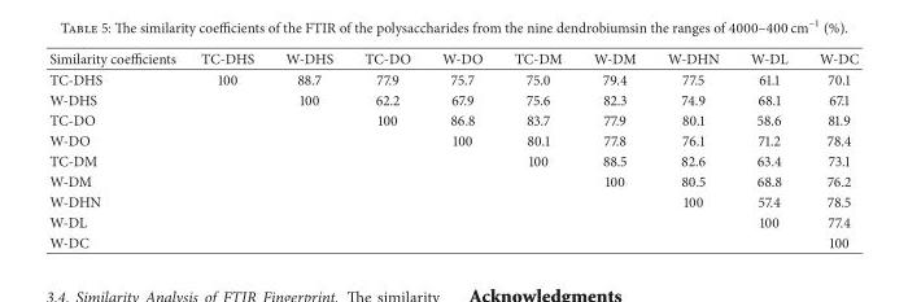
<table><thead><tr><td>Similarity coefficients</td><td>TC-DHS</td><td>W-DHS</td><td>TC-DO</td><td>W-DO</td><td>TC-DM</td><td>W-DM</td><td>W-DHN</td><td>W-DL</td><td>W-DC</td></tr></thead><tbody><tr><td>TC-DHS</td><td>100</td><td>88.7</td><td>77.9</td><td>75.7</td><td>75.0</td><td>79.4</td><td>77.5</td><td>61.1</td><td>70.1</td></tr><tr><td>W-DHS</td><td></td><td>100</td><td>62.2</td><td>67.9</td><td>75.6</td><td>82.3</td><td>74.9</td><td>68.1</td><td>67.1</td></tr><tr><td>TC-DO</td><td></td><td></td><td>100</td><td>86.8</td><td>83.7</td><td>77.9</td><td>80.1</td><td>58.6</td><td>81.9</td></tr><tr><td>W-DO</td><td></td><td></td><td></td><td>100</td><td>80.1</td><td>77.8</td><td>76.1</td><td>71.2</td><td>78.4</td></tr><tr><td>TC-DM</td><td></td><td></td><td></td><td></td><td>100</td><td>88.5</td><td>82.6</td><td>63.4</td><td>73.1</td></tr><tr><td>W-DM</td><td></td><td></td><td></td><td></td><td></td><td>100</td><td>80.5</td><td>68.8</td><td>76.2</td></tr><tr><td>W-DHN</td><td></td><td></td><td></td><td></td><td></td><td></td><td>100</td><td>57.4</td><td>78.5</td></tr><tr><td>W-DL</td><td></td><td></td><td></td><td></td><td></td><td></td><td></td><td>100</td><td>77.4</td></tr><tr><td>W-DC</td><td></td><td></td><td></td><td></td><td></td><td></td><td></td><td></td><td>100</td></tr></tbody></table>